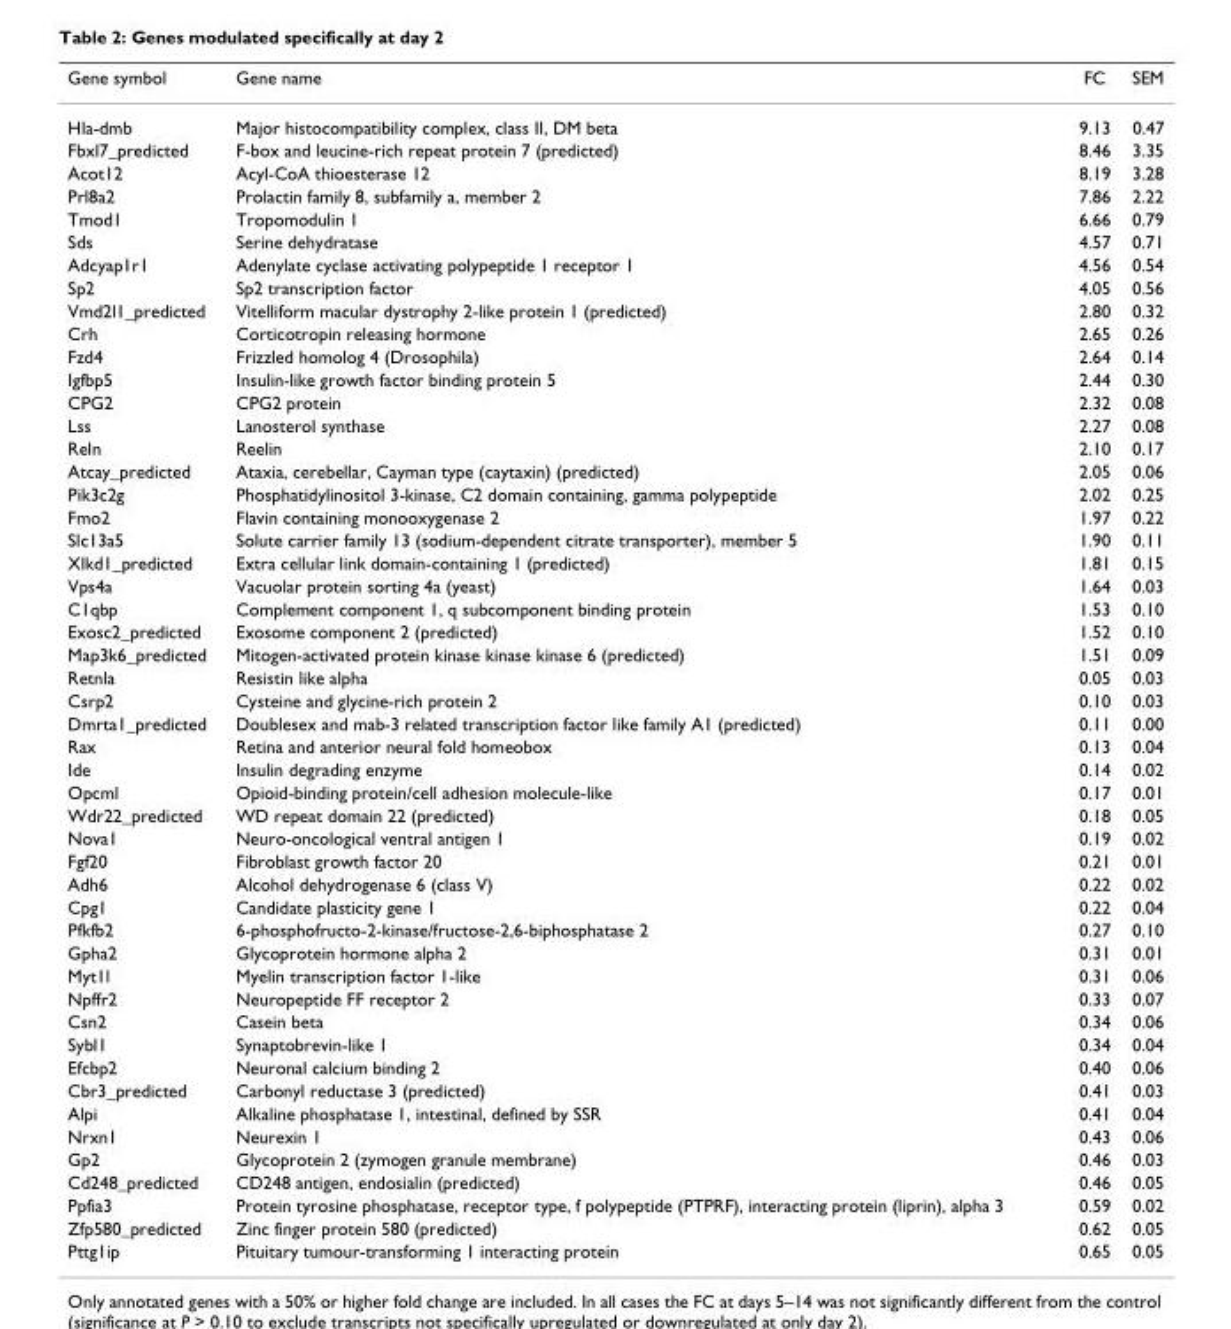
<table><thead><tr><td>Gene symbol</td><td>Gene name</td><td>FC</td><td>SEM</td></tr></thead><tbody><tr><td>Hla-dmb</td><td>Major histocompatibility complex, class II, DM beta</td><td>9.13</td><td>0.47</td></tr><tr><td>Fbxl7_predicted</td><td>F-box and leucine-rich repeat protein 7 (predicted)</td><td>8.46</td><td>3.35</td></tr><tr><td>Acot12</td><td>Acyl-CoA thioesterase 12</td><td>8.19</td><td>3.28</td></tr><tr><td>Prl8a2</td><td>Prolactin family 8, subfamily a, member 2</td><td>7.86</td><td>2.22</td></tr><tr><td>Tmod1</td><td>Tropomodulin 1</td><td>6.66</td><td>0.79</td></tr><tr><td>Sds</td><td>Serine dehydratase</td><td>4.57</td><td>0.71</td></tr><tr><td>Adcyap1r1</td><td>Adenylate cyclase activating polypeptide 1 receptor 1</td><td>4.56</td><td>0.54</td></tr><tr><td>Sp2</td><td>Sp2 transcription factor</td><td>4.05</td><td>0.56</td></tr><tr><td>Vmd2l1_predicted</td><td>Vitelliform macular dystrophy 2-like protein 1 (predicted)</td><td>2.80</td><td>0.32</td></tr><tr><td>Crh</td><td>Corticotropin releasing hormone</td><td>2.65</td><td>0.26</td></tr><tr><td>Fzd4</td><td>Frizzled homolog 4 (Drosophila)</td><td>2.64</td><td>0.14</td></tr><tr><td>Igfbp5</td><td>Insulin-like growth factor binding protein 5</td><td>2.44</td><td>0.30</td></tr><tr><td>CPG2</td><td>CPG2 protein</td><td>2.32</td><td>0.08</td></tr><tr><td>Lss</td><td>Lanosterol synthase</td><td>2.27</td><td>0.08</td></tr><tr><td>Reln</td><td>Reelin</td><td>2.10</td><td>0.17</td></tr><tr><td>Atcay_predicted</td><td>Ataxia, cerebellar, Cayman type (caytaxin) (predicted)</td><td>2.05</td><td>0.06</td></tr><tr><td>Pik3c2g</td><td>Phosphatidylinositol 3-kinase, C2 domain containing, gamma polypeptide</td><td>2.02</td><td>0.25</td></tr><tr><td>Fmo2</td><td>Flavin containing monooxygenase 2</td><td>1.97</td><td>0.22</td></tr><tr><td>Slc13a5</td><td>Solute carrier family 13 (sodium-dependent citrate transporter), member 5</td><td>1.90</td><td>0.11</td></tr><tr><td>Xlkd1_predicted</td><td>Extra cellular link domain-containing 1 (predicted)</td><td>1.81</td><td>0.15</td></tr><tr><td>Vps4a</td><td>Vacuolar protein sorting 4a (yeast)</td><td>1.64</td><td>0.03</td></tr><tr><td>C1qbp</td><td>Complement component 1, q subcomponent binding protein</td><td>1.53</td><td>0.10</td></tr><tr><td>Exosc2_predicted</td><td>Exosome component 2 (predicted)</td><td>1.52</td><td>0.10</td></tr><tr><td>Map3k6_predicted</td><td>Mitogen-activated protein kinase kinase kinase 6 (predicted)</td><td>1.51</td><td>0.09</td></tr><tr><td>Retnla</td><td>Resistin like alpha</td><td>0.05</td><td>0.03</td></tr><tr><td>Csrp2</td><td>Cysteine and glycine-rich protein 2</td><td>0.10</td><td>0.03</td></tr><tr><td>Dmrta1_predicted</td><td>Doublesex and mab-3 related transcription factor like family A1 (predicted)</td><td>0.11</td><td>0.00</td></tr><tr><td>Rax</td><td>Retina and anterior neural fold homeobox</td><td>0.13</td><td>0.04</td></tr><tr><td>Ide</td><td>Insulin degrading enzyme</td><td>0.14</td><td>0.02</td></tr><tr><td>Opcml</td><td>Opioid-binding protein/cell adhesion molecule-like</td><td>0.17</td><td>0.01</td></tr><tr><td>Wdr22_predicted</td><td>WD repeat domain 22 (predicted)</td><td>0.18</td><td>0.05</td></tr><tr><td>Nova1</td><td>Neuro-oncological ventral antigen 1</td><td>0.19</td><td>0.02</td></tr><tr><td>Fgf20</td><td>Fibroblast growth factor 20</td><td>0.21</td><td>0.01</td></tr><tr><td>Adh6</td><td>Alcohol dehydrogenase 6 (class V)</td><td>0.22</td><td>0.02</td></tr><tr><td>Cpg1</td><td>Candidate plasticity gene 1</td><td>0.22</td><td>0.04</td></tr><tr><td>Pfkfb2</td><td>6-phosphofructo-2-kinase/fructose-2,6-biphosphatase 2</td><td>0.27</td><td>0.10</td></tr><tr><td>Gpha2</td><td>Glycoprotein hormone alpha 2</td><td>0.31</td><td>0.01</td></tr><tr><td>Myt1l</td><td>Myelin transcription factor 1-like</td><td>0.31</td><td>0.06</td></tr><tr><td>Npffr2</td><td>Neuropeptide FF receptor 2</td><td>0.33</td><td>0.07</td></tr><tr><td>Csn2</td><td>Casein beta</td><td>0.34</td><td>0.06</td></tr><tr><td>Sybl1</td><td>Synaptobrevin-like 1</td><td>0.34</td><td>0.04</td></tr><tr><td>Efcbp2</td><td>Neuronal calcium binding 2</td><td>0.40</td><td>0.06</td></tr><tr><td>Cbr3_predicted</td><td>Carbonyl reductase 3 (predicted)</td><td>0.41</td><td>0.03</td></tr><tr><td>Alpi</td><td>Alkaline phosphatase 1, intestinal, defined by SSR</td><td>0.41</td><td>0.04</td></tr><tr><td>Nrxn1</td><td>Neurexin 1</td><td>0.43</td><td>0.06</td></tr><tr><td>Gp2</td><td>Glycoprotein 2 (zymogen granule membrane)</td><td>0.46</td><td>0.03</td></tr><tr><td>Cd248_predicted</td><td>CD248 antigen, endosialin (predicted)</td><td>0.46</td><td>0.05</td></tr><tr><td>Ppfia3</td><td>Protein tyrosine phosphatase, receptor type, f polypeptide (PTPRF), interacting protein (liprin), alpha 3</td><td>0.59</td><td>0.02</td></tr><tr><td>Zfp580_predicted</td><td>Zinc finger protein 580 (predicted)</td><td>0.62</td><td>0.05</td></tr><tr><td>Pttg1ip</td><td>Pituitary tumour-transforming 1 interacting protein</td><td>0.65</td><td>0.05</td></tr></tbody></table>